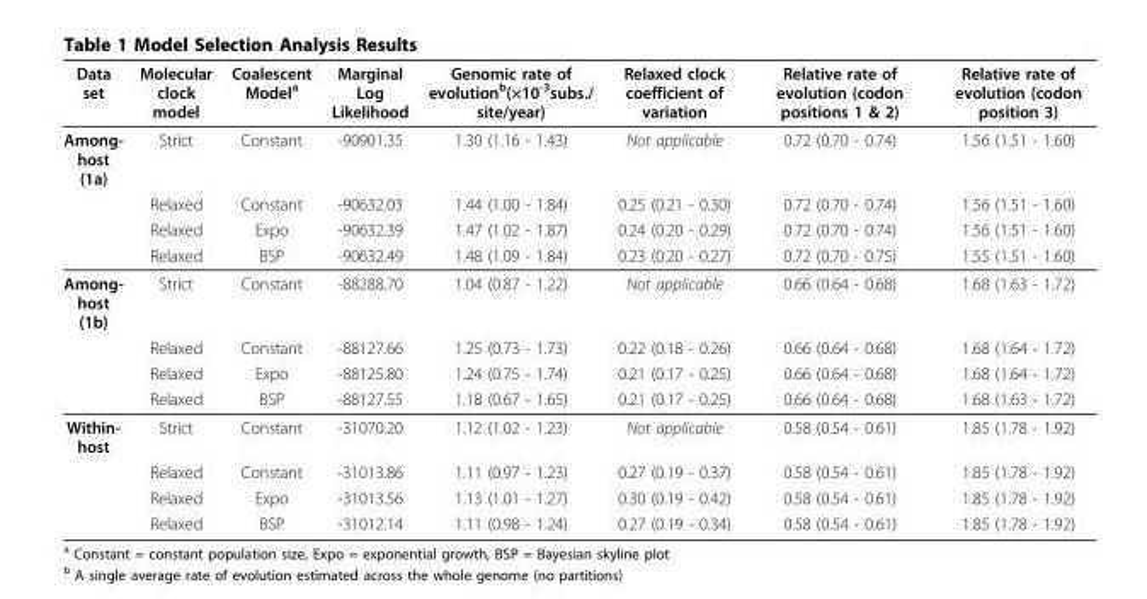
<table><thead><tr><td>Data set</td><td>Molecular clock model</td><td>Coalescent Model<sup>a</sup></td><td>Marginal Log Likelihood</td><td>Genomic rate of evolution<sup>b</sup>(×10<sup>-3</sup>subs./ site/year)</td><td>Relaxed clock coefficient of variation</td><td>Relative rate of evolution (codon positions 1 &amp; 2)</td><td>Relative rate of evolution (codon position 3)</td></tr></thead><tbody><tr><td rowspan="4">Among- host (1a)</td><td>Strict</td><td>Constant</td><td>-90901.35</td><td>1.30 (1.16 - 1.43)</td><td>Not applicable</td><td>0.72 (0.70 - 0.74)</td><td>1.56 (1.51 - 1.60)</td></tr><tr><td>Relaxed</td><td>Constant</td><td>-90632.03</td><td>1.44 (1.00 - 1.84)</td><td>0.25 (0.21 - 0.30)</td><td>0.72 (0.70 - 0.74)</td><td>1.56 (1.51 - 1.60)</td></tr><tr><td>Relaxed</td><td>Expo</td><td>-90632.39</td><td>1.47 (1.02 - 1.87)</td><td>0.24 (0.20 - 0.29)</td><td>0.72 (0.70 - 0.74)</td><td>1.56 (1.51 - 1.60)</td></tr><tr><td>Relaxed</td><td>BSP</td><td>-90632.49</td><td>1.48 (1.09 - 1.84)</td><td>0.23 (0.20 - 0.27)</td><td>0.72 (0.70 - 0.75)</td><td>1.55 (1.51 - 1.60)</td></tr><tr><td rowspan="4">Among- host (1b)</td><td>Strict</td><td>Constant</td><td>-88288.70</td><td>1.04 (0.87 - 1.22)</td><td>Not applicable</td><td>0.66 (0.64 - 0.68)</td><td>1.68 (1.63 - 1.72)</td></tr><tr><td>Relaxed</td><td>Constant</td><td>-88127.66</td><td>1.25 (0.73 - 1.73)</td><td>0.22 (0.18 - 0.26)</td><td>0.66 (0.64 - 0.68)</td><td>1.68 (1.64 - 1.72)</td></tr><tr><td>Relaxed</td><td>Expo</td><td>-88125.80</td><td>1.24 (0.75 - 1.74)</td><td>0.21 (0.17 - 0.25)</td><td>0.66 (0.64 - 0.68)</td><td>1.68 (1.64 - 1.72)</td></tr><tr><td>Relaxed</td><td>BSP</td><td>-88127.55</td><td>1.18 (0.67 - 1.65)</td><td>0.21 (0.17 - 0.25)</td><td>0.66 (0.64 - 0.68)</td><td>1.68 (1.63 - 1.72)</td></tr><tr><td rowspan="4">Within- host</td><td>Strict</td><td>Constant</td><td>-31070.20</td><td>1.12 (1.02 - 1.23)</td><td>Not applicable</td><td>0.58 (0.54 - 0.61)</td><td>1.85 (1.78 - 1.92)</td></tr><tr><td>Relaxed</td><td>Constant</td><td>-31013.86</td><td>1.11 (0.97 - 1.23)</td><td>0.27 (0.19 - 0.37)</td><td>0.58 (0.54 - 0.61)</td><td>1.85 (1.78 - 1.92)</td></tr><tr><td>Relaxed</td><td>Expo</td><td>-31013.56</td><td>1.13 (1.01 - 1.27)</td><td>0.30 (0.19 - 0.42)</td><td>0.58 (0.54 - 0.61)</td><td>1.85 (1.78 - 1.92)</td></tr><tr><td>Relaxed</td><td>BSP</td><td>-31012.14</td><td>1.11 (0.98 - 1.24)</td><td>0.27 (0.19 - 0.34)</td><td>0.58 (0.54 - 0.61)</td><td>1.85 (1.78 - 1.92)</td></tr></tbody></table>